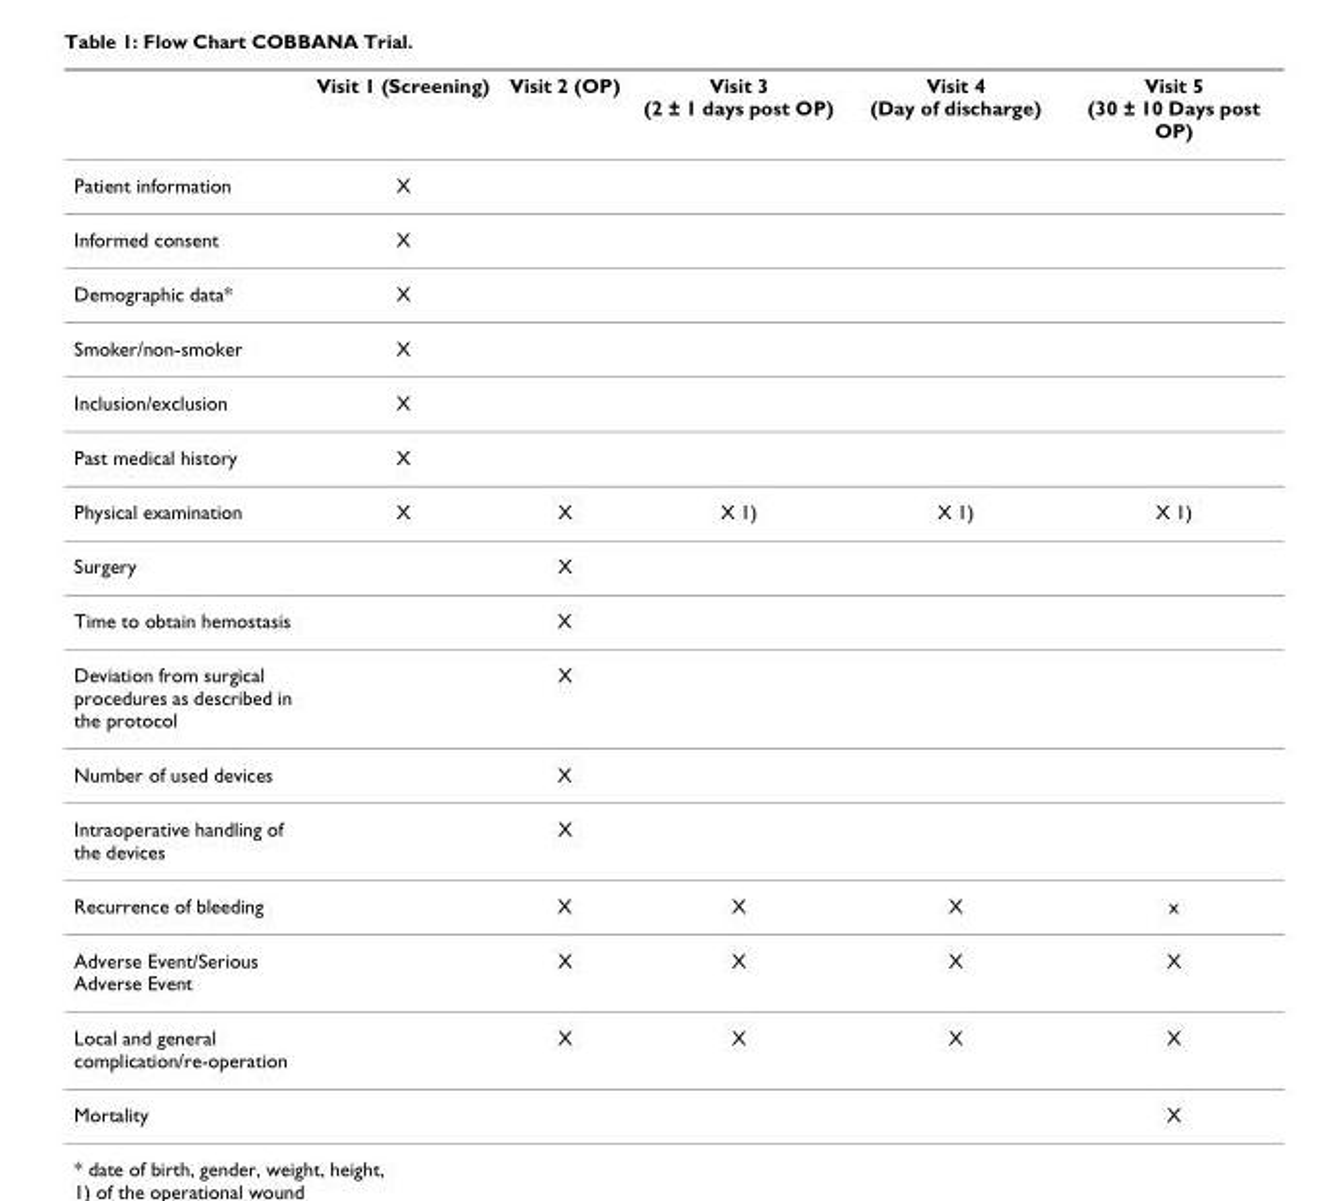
<table><thead><tr><td></td><td>Visit 1 (Screening)</td><td>Visit 2 (OP)</td><td>Visit 3 (2 ± 1 days post OP)</td><td>Visit 4 (Day of discharge)</td><td>Visit 5 (30 ± 10 Days post OP)</td></tr></thead><tbody><tr><td>Patient information</td><td>X</td><td></td><td></td><td></td><td></td></tr><tr><td>Informed consent</td><td>X</td><td></td><td></td><td></td><td></td></tr><tr><td>Demographic data*</td><td>X</td><td></td><td></td><td></td><td></td></tr><tr><td>Smoker/non-smoker</td><td>X</td><td></td><td></td><td></td><td></td></tr><tr><td>Inclusion/exclusion</td><td>X</td><td></td><td></td><td></td><td></td></tr><tr><td>Past medical history</td><td>X</td><td></td><td></td><td></td><td></td></tr><tr><td>Physical examination</td><td>X</td><td>X</td><td>X 1)</td><td>X 1)</td><td>X 1)</td></tr><tr><td>Surgery</td><td></td><td>X</td><td></td><td></td><td></td></tr><tr><td>Time to obtain hemostasis</td><td></td><td>X</td><td></td><td></td><td></td></tr><tr><td>Deviation from surgical procedures as described in the protocol</td><td></td><td>X</td><td></td><td></td><td></td></tr><tr><td>Number of used devices</td><td></td><td>X</td><td></td><td></td><td></td></tr><tr><td>Intraoperative handling of the devices</td><td></td><td>X</td><td></td><td></td><td></td></tr><tr><td>Recurrence of bleeding</td><td></td><td>X</td><td>X</td><td>X</td><td>x</td></tr><tr><td>Adverse Event/Serious Adverse Event</td><td></td><td>X</td><td>X</td><td>X</td><td>X</td></tr><tr><td>Local and general complication/re-operation</td><td></td><td>X</td><td>X</td><td>X</td><td>X</td></tr><tr><td>Mortality</td><td></td><td></td><td></td><td></td><td>X</td></tr></tbody></table>